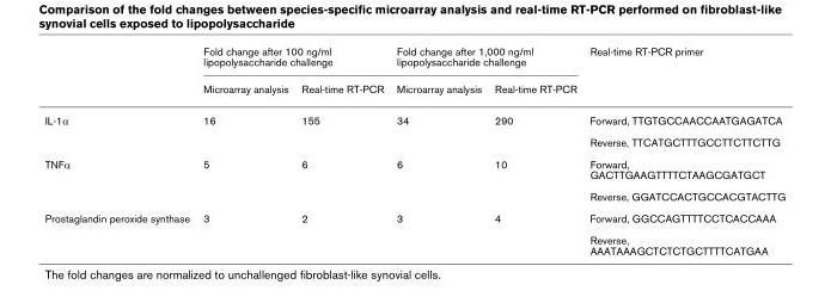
<table><thead><tr><td rowspan="2"></td><td colspan="2">Fold change after 100 ng/ml lipopolysaccharide challenge</td><td colspan="2">Fold change after 1,000 ng/ml lipopolysaccharide challenge</td><td rowspan="2">Real-time RT-PCR primer</td></tr><tr><td>Microarray analysis</td><td>Real-time RT-PCR</td><td>Microarray analysis</td><td>Real-time RT-PCR</td></tr></thead><tbody><tr><td rowspan="2">IL-1α</td><td>16</td><td>155</td><td>34</td><td>290</td><td>Forward, TTGTGCCAACCAATGAGATCA</td></tr><tr><td></td><td></td><td></td><td></td><td>Reverse, TTCATGCTTTGCCTTCTTCTTG</td></tr><tr><td rowspan="2">TNFα</td><td>5</td><td>6</td><td>6</td><td>10</td><td>Forward, GACTTGAAGTTTTCTAAGCGATGCT</td></tr><tr><td></td><td></td><td></td><td></td><td>Reverse, GGATCCACTGCCACGTACTTG</td></tr><tr><td rowspan="2">Prostaglandin peroxide synthase</td><td>3</td><td>2</td><td>3</td><td>4</td><td>Forward, GGCCAGTTTTCCTCACCAAA</td></tr><tr><td></td><td></td><td></td><td></td><td>Reverse, AAATAAAGCTCTCTGCTTTTCATGAA</td></tr></tbody></table>